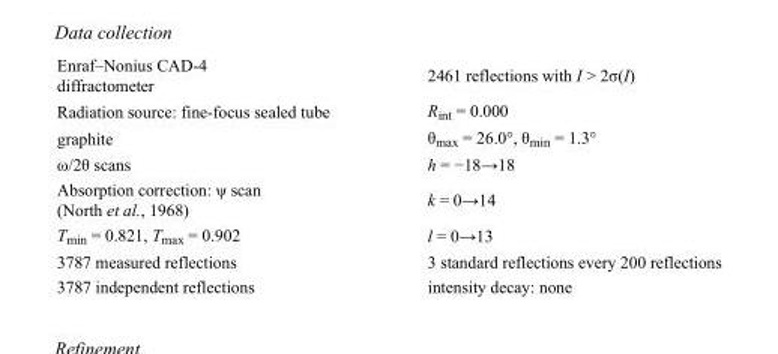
<table><tbody><tr><td>Enraf–Nonius CAD-4 diffractometer</td><td>2461 reflections with I &gt; 2σ(I)</td></tr><tr><td>Radiation source: fine-focus sealed tube</td><td>R<sub>int</sub> = 0.000</td></tr><tr><td>graphite</td><td>θ<sub>max</sub> = 26.0°, θ<sub>min</sub> = 1.3°</td></tr><tr><td>ω/2θ scans</td><td>h = −18→18</td></tr><tr><td>Absorption correction: ψ scan (North et al., 1968)</td><td>k = 0→14</td></tr><tr><td>T<sub>min</sub> = 0.821, T<sub>max</sub> = 0.902</td><td>l = 0→13</td></tr><tr><td>3787 measured reflections</td><td>3 standard reflections every 200 reflections</td></tr><tr><td>3787 independent reflections</td><td>intensity decay: none</td></tr></tbody></table>